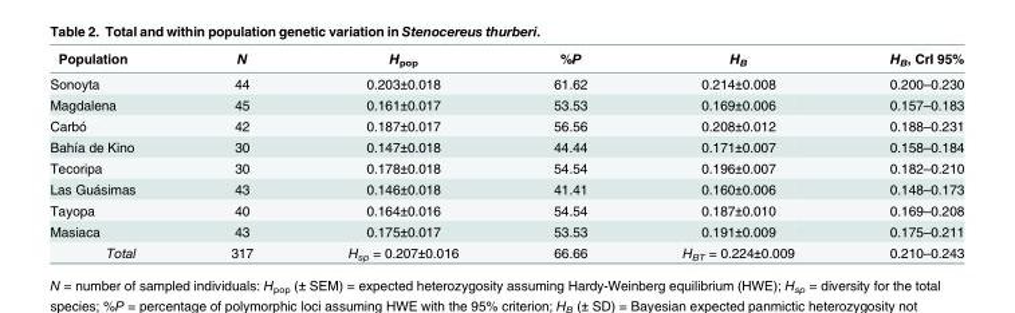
<table><thead><tr><td>Population</td><td>N</td><td>H<sub>pop</sub></td><td>%P</td><td>H<sub>B</sub></td><td>H<sub>B</sub>, CrI 95%</td></tr></thead><tbody><tr><td>Sonoyta</td><td>44</td><td>0.203±0.018</td><td>61.62</td><td>0.214±0.008</td><td>0.200–0.230</td></tr><tr><td>Magdalena</td><td>45</td><td>0.161±0.017</td><td>53.53</td><td>0.169±0.006</td><td>0.157–0.183</td></tr><tr><td>Carbó</td><td>42</td><td>0.187±0.017</td><td>56.56</td><td>0.208±0.012</td><td>0.188–0.231</td></tr><tr><td>Bahía de Kino</td><td>30</td><td>0.147±0.018</td><td>44.44</td><td>0.171±0.007</td><td>0.158–0.184</td></tr><tr><td>Tecoripa</td><td>30</td><td>0.178±0.018</td><td>54.54</td><td>0.196±0.007</td><td>0.182–0.210</td></tr><tr><td>Las Guásimas</td><td>43</td><td>0.146±0.018</td><td>41.41</td><td>0.160±0.006</td><td>0.148–0.173</td></tr><tr><td>Tayopa</td><td>40</td><td>0.164±0.016</td><td>54.54</td><td>0.187±0.010</td><td>0.169–0.208</td></tr><tr><td>Masiaca</td><td>43</td><td>0.175±0.017</td><td>53.53</td><td>0.191±0.009</td><td>0.175–0.211</td></tr><tr><td>Total</td><td>317</td><td>H<sub>sp</sub> = 0.207±0.016</td><td>66.66</td><td>H<sub>BT</sub> = 0.224±0.009</td><td>0.210–0.243</td></tr></tbody></table>